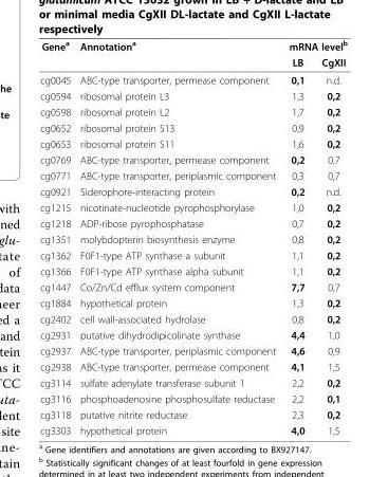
<table><thead><tr><td rowspan="2">Gene<sup>a</sup></td><td rowspan="2">Annotation<sup>a</sup></td><td colspan="2">mRNA level<sup>b</sup></td></tr><tr><td>LB</td><td>CgXII</td></tr></thead><tbody><tr><td>cg0045</td><td>ABC-type transporter, permease component</td><td>0,1</td><td>n.d.</td></tr><tr><td>cg0594</td><td>ribosomal protein L3</td><td>1,3</td><td>0,2</td></tr><tr><td>cg0598</td><td>ribosomal protein L2</td><td>1,7</td><td>0,2</td></tr><tr><td>cg0652</td><td>ribosomal protein S13</td><td>0,9</td><td>0,2</td></tr><tr><td>cg0653</td><td>ribosomal protein S11</td><td>1,6</td><td>0,2</td></tr><tr><td>cg0769</td><td>ABC-type transporter, permease component</td><td>0,2</td><td>0,7</td></tr><tr><td>cg0771</td><td>ABC-type transporter, periplasmic component</td><td>0,3</td><td>0,7</td></tr><tr><td>cg0921</td><td>Siderophore-interacting protein</td><td>0,2</td><td>n.d.</td></tr><tr><td>cg1215</td><td>nicotinate-nucleotide pyrophosphorylase</td><td>1,0</td><td>0,2</td></tr><tr><td>cg1218</td><td>ADP-ribose pyrophosphatase</td><td>0,7</td><td>0,2</td></tr><tr><td>cg1351</td><td>molybdopterin biosynthesis enzyme</td><td>0,8</td><td>0,2</td></tr><tr><td>cg1362</td><td>F0F1-type ATP synthase a subunit</td><td>1,1</td><td>0,2</td></tr><tr><td>cg1366</td><td>F0F1-type ATP synthase alpha subunit</td><td>1,1</td><td>0,2</td></tr><tr><td>cg1447</td><td>Co/Zn/Cd efflux system component</td><td>7,7</td><td>0,7</td></tr><tr><td>cg1884</td><td>hypothetical protein</td><td>1,3</td><td>0,2</td></tr><tr><td>cg2402</td><td>cell wall-associated hydrolase</td><td>0,8</td><td>0,2</td></tr><tr><td>cg2931</td><td>putative dihydrodipicolinate synthase</td><td>4,4</td><td>1,0</td></tr><tr><td>cg2937</td><td>ABC-type transporter, periplasmic component</td><td>4,6</td><td>0,9</td></tr><tr><td>cg2938</td><td>ABC-type transporter, permease component</td><td>4,1</td><td>1,5</td></tr><tr><td>cg3114</td><td>sulfate adenylate transferase subunit 1</td><td>2,2</td><td>0,2</td></tr><tr><td>cg3116</td><td>phosphoadenosine phosphosulfate reductase</td><td>2,2</td><td>0,1</td></tr><tr><td>cg3118</td><td>putative nitrite reductase</td><td>2,3</td><td>0,2</td></tr><tr><td>cg3303</td><td>hypothetical protein</td><td>4,0</td><td>1,5</td></tr></tbody></table>